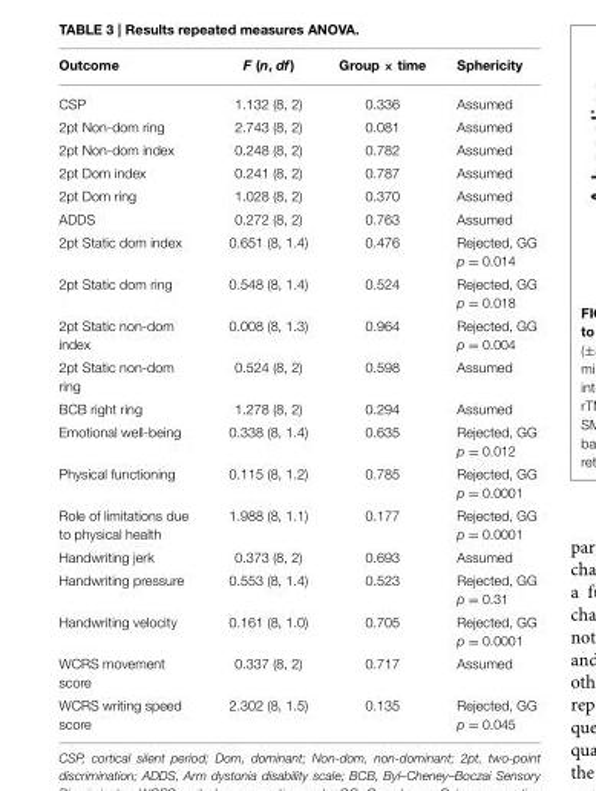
<table><thead><tr><td>Outcome</td><td>F (n, df)</td><td>Group × time</td><td>Sphericity</td></tr></thead><tbody><tr><td>CSP</td><td>1.132 (8, 2)</td><td>0.336</td><td>Assumed</td></tr><tr><td>2pt Non-dom ring</td><td>2.743 (8, 2)</td><td>0.081</td><td>Assumed</td></tr><tr><td>2pt Non-dom index</td><td>0.248 (8, 2)</td><td>0.782</td><td>Assumed</td></tr><tr><td>2pt Dom index</td><td>0.241 (8, 2)</td><td>0.787</td><td>Assumed</td></tr><tr><td>2pt Dom ring</td><td>1.028 (8, 2)</td><td>0.370</td><td>Assumed</td></tr><tr><td>ADDS</td><td>0.272 (8, 2)</td><td>0.763</td><td>Assumed</td></tr><tr><td>2pt Static dom index</td><td>0.651 (8, 1.4)</td><td>0.476</td><td>Rejected, GG p = 0.014</td></tr><tr><td>2pt Static dom ring</td><td>0.548 (8, 1.4)</td><td>0.524</td><td>Rejected, GG p = 0.018</td></tr><tr><td>2pt Static non-dom index</td><td>0.008 (8, 1.3)</td><td>0.964</td><td>Rejected, GG p = 0.004</td></tr><tr><td>2pt Static non-dom ring</td><td>0.524 (8, 2)</td><td>0.598</td><td>Assumed</td></tr><tr><td>BCB right ring</td><td>1.278 (8, 2)</td><td>0.294</td><td>Assumed</td></tr><tr><td>Emotional well-being</td><td>0.338 (8, 1.4)</td><td>0.635</td><td>Rejected, GG p = 0.012</td></tr><tr><td>Physical functioning</td><td>0.115 (8, 1.2)</td><td>0.785</td><td>Rejected, GG p = 0.0001</td></tr><tr><td>Role of limitations due to physical health</td><td>1.988 (8, 1.1)</td><td>0.177</td><td>Rejected, GG p = 0.0001</td></tr><tr><td>Handwriting jerk</td><td>0.373 (8, 2)</td><td>0.693</td><td>Assumed</td></tr><tr><td>Handwriting pressure</td><td>0.553 (8, 1.4)</td><td>0.523</td><td>Rejected, GG p = 0.31</td></tr><tr><td>Handwriting velocity</td><td>0.161 (8, 1.0)</td><td>0.705</td><td>Rejected, GG p = 0.0001</td></tr><tr><td>WCRS movement score</td><td>0.337 (8, 2)</td><td>0.717</td><td>Assumed</td></tr><tr><td>WCRS writing speed score</td><td>2.302 (8, 1.5)</td><td>0.135</td><td>Rejected, GG p = 0.045</td></tr></tbody></table>